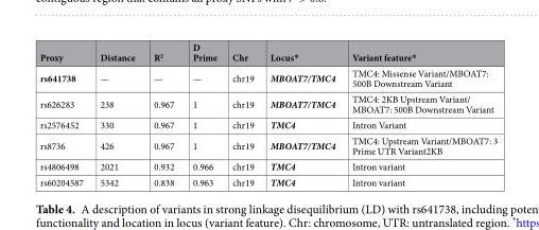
<table><thead><tr><td>Proxy</td><td>Distance</td><td>R<sup>2</sup></td><td>D Prime</td><td>Chr</td><td>Locus*</td><td>Variant feature*</td></tr></thead><tbody><tr><td>rs641738</td><td>—</td><td>—</td><td>—</td><td>chr19</td><td>MBOAT7/TMC4</td><td>TMC4: Missense Variant/MBOAT7: 500B Downstream Variant</td></tr><tr><td>rs626283</td><td>238</td><td>0.967</td><td>1</td><td>chr19</td><td>MBOAT7/TMC4</td><td>TMC4: 2KB Upstream Variant/ MBOAT7: 500B Downstream Variant</td></tr><tr><td>rs2576452</td><td>330</td><td>0.967</td><td>1</td><td>chr19</td><td>TMC4</td><td>Intron Variant</td></tr><tr><td>rs8736</td><td>426</td><td>0.967</td><td>1</td><td>chr19</td><td>MBOAT7/TMC4</td><td>TMC4: Upstream Variant/MBOAT7: 3 Prime UTR Variant2KB</td></tr><tr><td>rs4806498</td><td>2021</td><td>0.932</td><td>0.966</td><td>chr19</td><td>TMC4</td><td>Intron variant</td></tr><tr><td>rs60204587</td><td>5342</td><td>0.838</td><td>0.963</td><td>chr19</td><td>TMC4</td><td>Intron variant</td></tr></tbody></table>